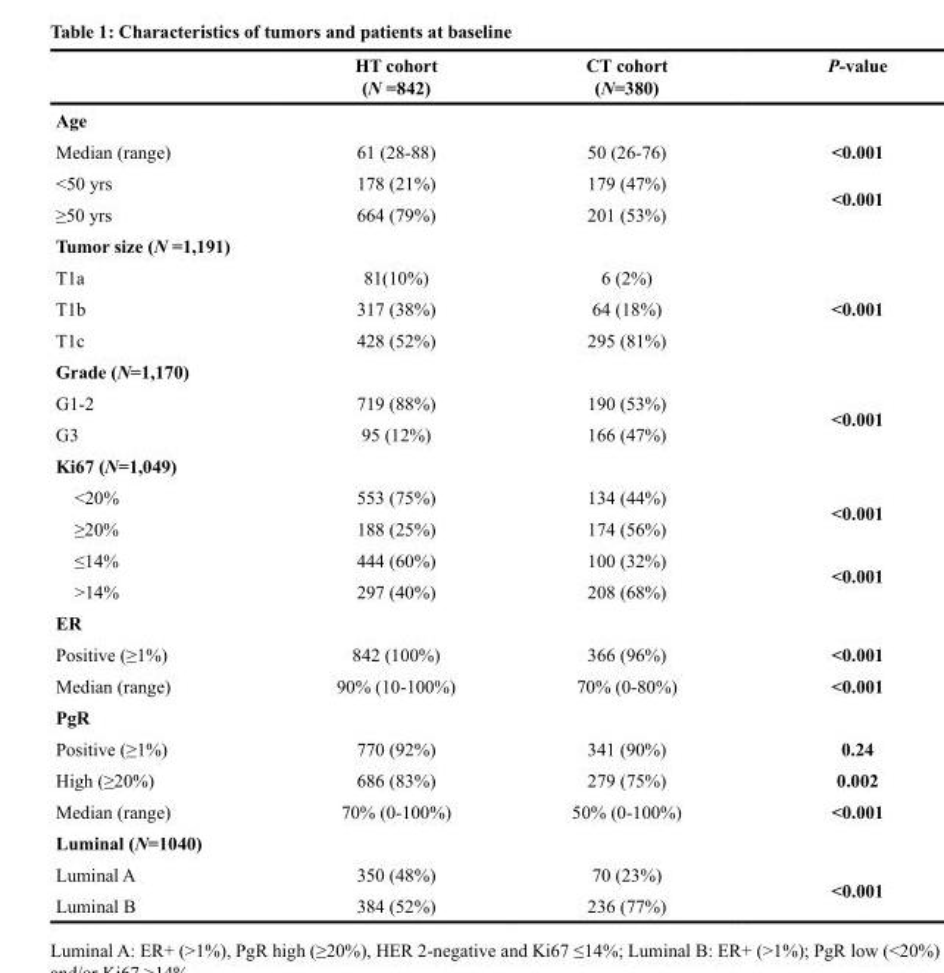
<table><thead><tr><td></td><td>HT cohort (N =842)</td><td>CT cohort (N=380)</td><td>P-value</td></tr></thead><tbody><tr><td colspan="4">Age</td></tr><tr><td>Median (range)</td><td>61 (28-88)</td><td>50 (26-76)</td><td>&lt;0.001</td></tr><tr><td>&lt;50 yrs</td><td>178 (21%)</td><td>179 (47%)</td><td rowspan="2">&lt;0.001</td></tr><tr><td>≥50 yrs</td><td>664 (79%)</td><td>201 (53%)</td></tr><tr><td colspan="4">Tumor size (N =1,191)</td></tr><tr><td>T1a</td><td>81(10%)</td><td>6 (2%)</td><td rowspan="3">&lt;0.001</td></tr><tr><td>T1b</td><td>317 (38%)</td><td>64 (18%)</td></tr><tr><td>T1c</td><td>428 (52%)</td><td>295 (81%)</td></tr><tr><td colspan="4">Grade (N=1,170)</td></tr><tr><td>G1-2</td><td>719 (88%)</td><td>190 (53%)</td><td rowspan="2">&lt;0.001</td></tr><tr><td>G3</td><td>95 (12%)</td><td>166 (47%)</td></tr><tr><td colspan="4">Ki67 (N=1,049)</td></tr><tr><td>&lt;20%</td><td>553 (75%)</td><td>134 (44%)</td><td rowspan="2">&lt;0.001</td></tr><tr><td>≥20%</td><td>188 (25%)</td><td>174 (56%)</td></tr><tr><td>≤14%</td><td>444 (60%)</td><td>100 (32%)</td><td rowspan="2">&lt;0.001</td></tr><tr><td>&gt;14%</td><td>297 (40%)</td><td>208 (68%)</td></tr><tr><td colspan="4">ER</td></tr><tr><td>Positive (≥1%)</td><td>842 (100%)</td><td>366 (96%)</td><td>&lt;0.001</td></tr><tr><td>Median (range)</td><td>90% (10-100%)</td><td>70% (0-80%)</td><td>&lt;0.001</td></tr><tr><td colspan="4">PgR</td></tr><tr><td>Positive (≥1%)</td><td>770 (92%)</td><td>341 (90%)</td><td>0.24</td></tr><tr><td>High (≥20%)</td><td>686 (83%)</td><td>279 (75%)</td><td>0.002</td></tr><tr><td>Median (range)</td><td>70% (0-100%)</td><td>50% (0-100%)</td><td>&lt;0.001</td></tr><tr><td colspan="4">Luminal (N=1040)</td></tr><tr><td>Luminal A</td><td>350 (48%)</td><td>70 (23%)</td><td rowspan="2">&lt;0.001</td></tr><tr><td>Luminal B</td><td>384 (52%)</td><td>236 (77%)</td></tr></tbody></table>